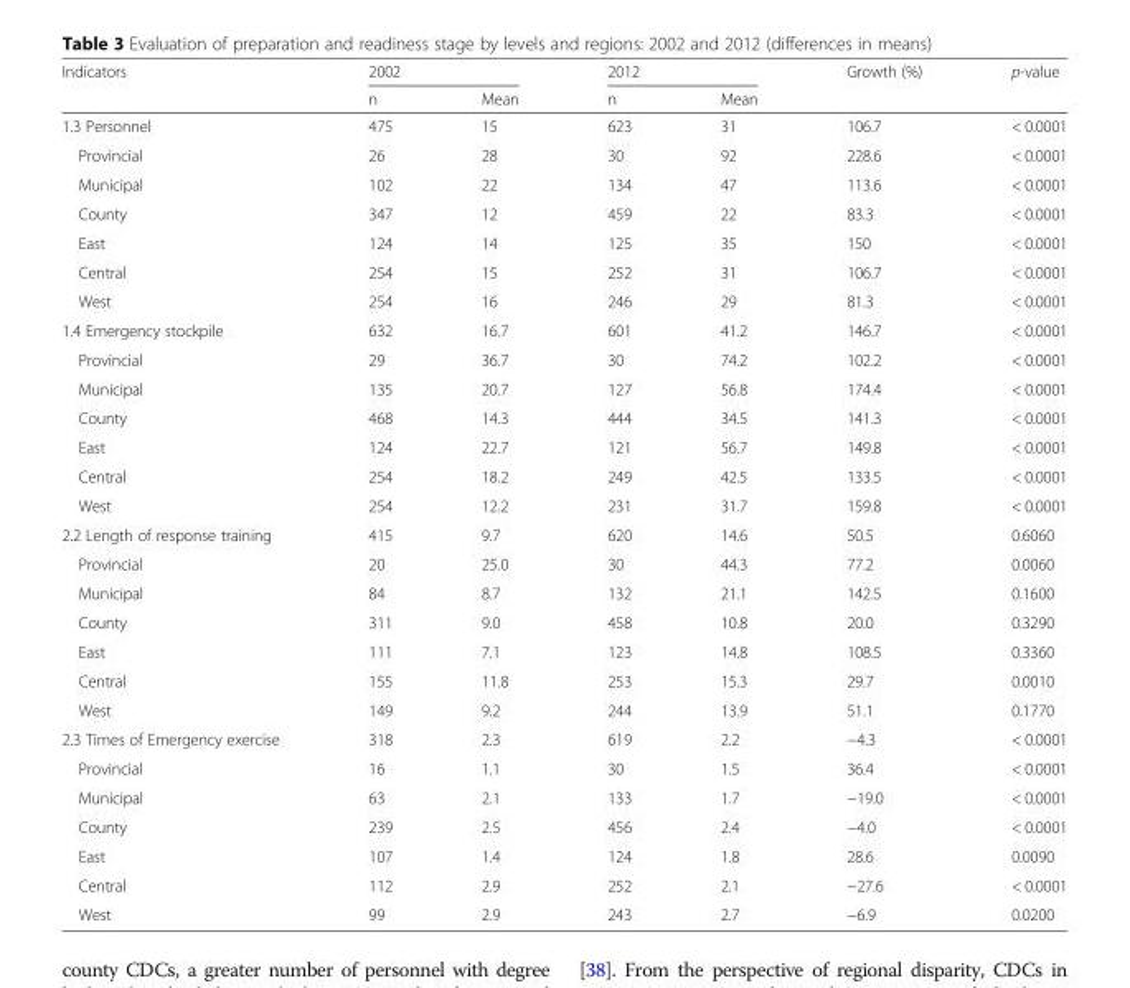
<table><thead><tr><td rowspan="2">Indicators</td><td colspan="2">2002</td><td colspan="2">2012</td><td rowspan="2">Growth (%)</td><td rowspan="2">p-value</td></tr><tr><td>n</td><td>Mean</td><td>n</td><td>Mean</td></tr></thead><tbody><tr><td>1.3 Personnel</td><td>475</td><td>15</td><td>623</td><td>31</td><td>106.7</td><td>&lt; 0.0001</td></tr><tr><td>Provincial</td><td>26</td><td>28</td><td>30</td><td>92</td><td>228.6</td><td>&lt; 0.0001</td></tr><tr><td>Municipal</td><td>102</td><td>22</td><td>134</td><td>47</td><td>113.6</td><td>&lt; 0.0001</td></tr><tr><td>County</td><td>347</td><td>12</td><td>459</td><td>22</td><td>83.3</td><td>&lt; 0.0001</td></tr><tr><td>East</td><td>124</td><td>14</td><td>125</td><td>35</td><td>150</td><td>&lt; 0.0001</td></tr><tr><td>Central</td><td>254</td><td>15</td><td>252</td><td>31</td><td>106.7</td><td>&lt; 0.0001</td></tr><tr><td>West</td><td>254</td><td>16</td><td>246</td><td>29</td><td>81.3</td><td>&lt; 0.0001</td></tr><tr><td>1.4 Emergency stockpile</td><td>632</td><td>16.7</td><td>601</td><td>41.2</td><td>146.7</td><td>&lt; 0.0001</td></tr><tr><td>Provincial</td><td>29</td><td>36.7</td><td>30</td><td>74.2</td><td>102.2</td><td>&lt; 0.0001</td></tr><tr><td>Municipal</td><td>135</td><td>20.7</td><td>127</td><td>56.8</td><td>174.4</td><td>&lt; 0.0001</td></tr><tr><td>County</td><td>468</td><td>14.3</td><td>444</td><td>34.5</td><td>141.3</td><td>&lt; 0.0001</td></tr><tr><td>East</td><td>124</td><td>22.7</td><td>121</td><td>56.7</td><td>149.8</td><td>&lt; 0.0001</td></tr><tr><td>Central</td><td>254</td><td>18.2</td><td>249</td><td>42.5</td><td>133.5</td><td>&lt; 0.0001</td></tr><tr><td>West</td><td>254</td><td>12.2</td><td>231</td><td>31.7</td><td>159.8</td><td>&lt; 0.0001</td></tr><tr><td>2.2 Length of response training</td><td>415</td><td>9.7</td><td>620</td><td>14.6</td><td>50.5</td><td>0.6060</td></tr><tr><td>Provincial</td><td>20</td><td>25.0</td><td>30</td><td>44.3</td><td>77.2</td><td>0.0060</td></tr><tr><td>Municipal</td><td>84</td><td>8.7</td><td>132</td><td>21.1</td><td>142.5</td><td>0.1600</td></tr><tr><td>County</td><td>311</td><td>9.0</td><td>458</td><td>10.8</td><td>20.0</td><td>0.3290</td></tr><tr><td>East</td><td>111</td><td>7.1</td><td>123</td><td>14.8</td><td>108.5</td><td>0.3360</td></tr><tr><td>Central</td><td>155</td><td>11.8</td><td>253</td><td>15.3</td><td>29.7</td><td>0.0010</td></tr><tr><td>West</td><td>149</td><td>9.2</td><td>244</td><td>13.9</td><td>51.1</td><td>0.1770</td></tr><tr><td>2.3 Times of Emergency exercise</td><td>318</td><td>2.3</td><td>619</td><td>2.2</td><td>−4.3</td><td>&lt; 0.0001</td></tr><tr><td>Provincial</td><td>16</td><td>1.1</td><td>30</td><td>1.5</td><td>36.4</td><td>&lt; 0.0001</td></tr><tr><td>Municipal</td><td>63</td><td>2.1</td><td>133</td><td>1.7</td><td>−19.0</td><td>&lt; 0.0001</td></tr><tr><td>County</td><td>239</td><td>2.5</td><td>456</td><td>2.4</td><td>−4.0</td><td>&lt; 0.0001</td></tr><tr><td>East</td><td>107</td><td>1.4</td><td>124</td><td>1.8</td><td>28.6</td><td>0.0090</td></tr><tr><td>Central</td><td>112</td><td>2.9</td><td>252</td><td>2.1</td><td>−27.6</td><td>&lt; 0.0001</td></tr><tr><td>West</td><td>99</td><td>2.9</td><td>243</td><td>2.7</td><td>−6.9</td><td>0.0200</td></tr></tbody></table>